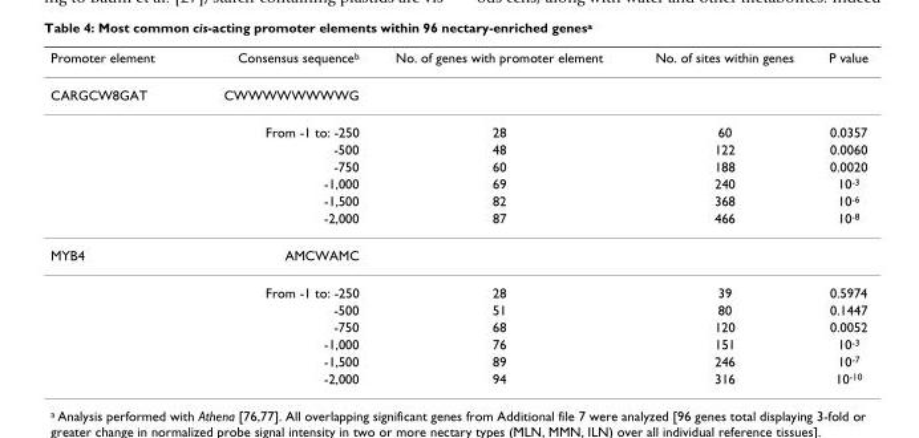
<table><thead><tr><td>Promoter element</td><td>Consensus sequence<sup>b</sup></td><td>No. of genes with promoter element</td><td>No. of sites within genes</td><td>P value</td></tr></thead><tbody><tr><td rowspan="7">CARGCW8GAT</td><td>CWWWWWWWWG</td><td></td><td></td><td></td></tr><tr><td>From -1 to: -250</td><td>28</td><td>60</td><td>0.0357</td></tr><tr><td>-500</td><td>48</td><td>122</td><td>0.0060</td></tr><tr><td>-750</td><td>60</td><td>188</td><td>0.0020</td></tr><tr><td>-1,000</td><td>69</td><td>240</td><td>10<sup>-3</sup></td></tr><tr><td>-1,500</td><td>82</td><td>368</td><td>10<sup>-6</sup></td></tr><tr><td>-2,000</td><td>87</td><td>466</td><td>10<sup>-8</sup></td></tr><tr><td rowspan="7">MYB4</td><td>AMCWAMC</td><td></td><td></td><td></td></tr><tr><td>From -1 to: -250</td><td>28</td><td>39</td><td>0.5974</td></tr><tr><td>-500</td><td>51</td><td>80</td><td>0.1447</td></tr><tr><td>-750</td><td>68</td><td>120</td><td>0.0052</td></tr><tr><td>-1,000</td><td>76</td><td>151</td><td>10<sup>-3</sup></td></tr><tr><td>-1,500</td><td>89</td><td>246</td><td>10<sup>-7</sup></td></tr><tr><td>-2,000</td><td>94</td><td>316</td><td>10<sup>-10</sup></td></tr></tbody></table>